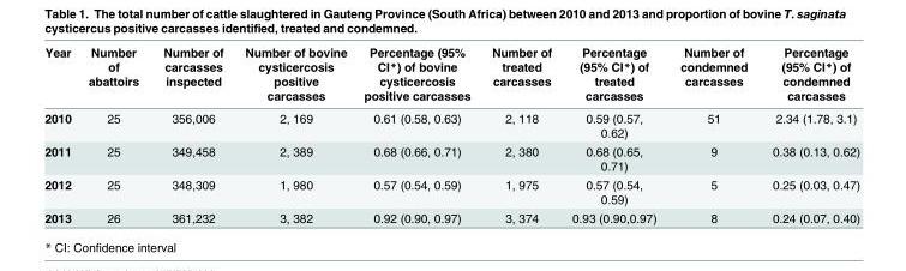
<table><thead><tr><td>Year</td><td>Number of abattoirs</td><td>Number of carcasses inspected</td><td>Number of bovine cysticercosis positive carcasses</td><td>Percentage (95% CI*) of bovine cysticercosis positive carcasses</td><td>Number of treated carcasses</td><td>Percentage (95% CI*) of treated carcasses</td><td>Number of condemned carcasses</td><td>Percentage (95% CI*) of condemned carcasses</td></tr></thead><tbody><tr><td>2010</td><td>25</td><td>356,006</td><td>2, 169</td><td>0.61 (0.58, 0.63)</td><td>2, 118</td><td>0.59 (0.57, 0.62)</td><td>51</td><td>2.34 (1.78, 3.1)</td></tr><tr><td>2011</td><td>25</td><td>349,458</td><td>2, 389</td><td>0.68 (0.66, 0.71)</td><td>2, 380</td><td>0.68 (0.65, 0.71)</td><td>9</td><td>0.38 (0.13, 0.62)</td></tr><tr><td>2012</td><td>25</td><td>348,309</td><td>1, 980</td><td>0.57 (0.54, 0.59)</td><td>1, 975</td><td>0.57 (0.54, 0.59)</td><td>5</td><td>0.25 (0.03, 0.47)</td></tr><tr><td>2013</td><td>26</td><td>361,232</td><td>3, 382</td><td>0.92 (0.90, 0.97)</td><td>3, 374</td><td>0.93 (0.90,0.97)</td><td>8</td><td>0.24 (0.07, 0.40)</td></tr></tbody></table>